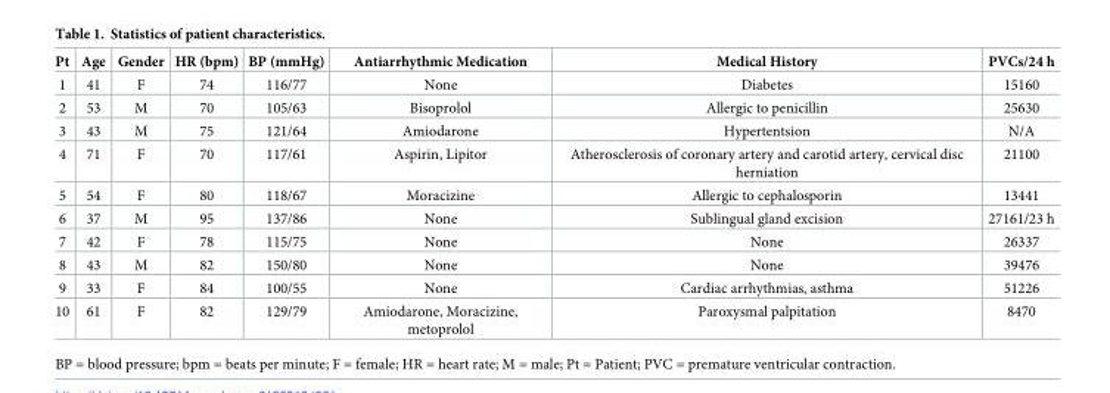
<table><thead><tr><td>Pt</td><td>Age</td><td>Gender</td><td>HR (bpm)</td><td>BP (mmHg)</td><td>Antiarrhythmic Medication</td><td>Medical History</td><td>PVCs/24 h</td></tr></thead><tbody><tr><td>1</td><td>41</td><td>F</td><td>74</td><td>116/77</td><td>None</td><td>Diabetes</td><td>15160</td></tr><tr><td>2</td><td>53</td><td>M</td><td>70</td><td>105/63</td><td>Bisoprolol</td><td>Allergic to penicillin</td><td>25630</td></tr><tr><td>3</td><td>43</td><td>M</td><td>75</td><td>121/64</td><td>Amiodarone</td><td>Hypertentsion</td><td>N/A</td></tr><tr><td>4</td><td>71</td><td>F</td><td>70</td><td>117/61</td><td>Aspirin, Lipitor</td><td>Atherosclerosis of coronary artery and carotid artery, cervical disc herniation</td><td>21100</td></tr><tr><td>5</td><td>54</td><td>F</td><td>80</td><td>118/67</td><td>Moracizine</td><td>Allergic to cephalosporin</td><td>13441</td></tr><tr><td>6</td><td>37</td><td>M</td><td>95</td><td>137/86</td><td>None</td><td>Sublingual gland excision</td><td>27161/23 h</td></tr><tr><td>7</td><td>42</td><td>F</td><td>78</td><td>115/75</td><td>None</td><td>None</td><td>26337</td></tr><tr><td>8</td><td>43</td><td>M</td><td>82</td><td>150/80</td><td>None</td><td>None</td><td>39476</td></tr><tr><td>9</td><td>33</td><td>F</td><td>84</td><td>100/55</td><td>None</td><td>Cardiac arrhythmias, asthma</td><td>51226</td></tr><tr><td>10</td><td>61</td><td>F</td><td>82</td><td>129/79</td><td>Amiodarone, Moracizine, metoprolol</td><td>Paroxysmal palpitation</td><td>8470</td></tr></tbody></table>